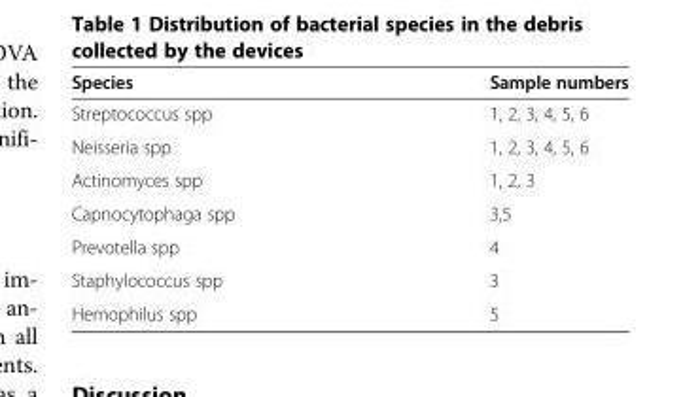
<table><thead><tr><td>Species</td><td>Sample numbers</td></tr></thead><tbody><tr><td>Streptococcus spp</td><td>1, 2, 3, 4, 5, 6</td></tr><tr><td>Neisseria spp</td><td>1, 2, 3, 4, 5, 6</td></tr><tr><td>Actinomyces spp</td><td>1, 2, 3</td></tr><tr><td>Capnocytophaga spp</td><td>3,5</td></tr><tr><td>Prevotella spp</td><td>4</td></tr><tr><td>Staphylococcus spp</td><td>3</td></tr><tr><td>Hemophilus spp</td><td>5</td></tr></tbody></table>